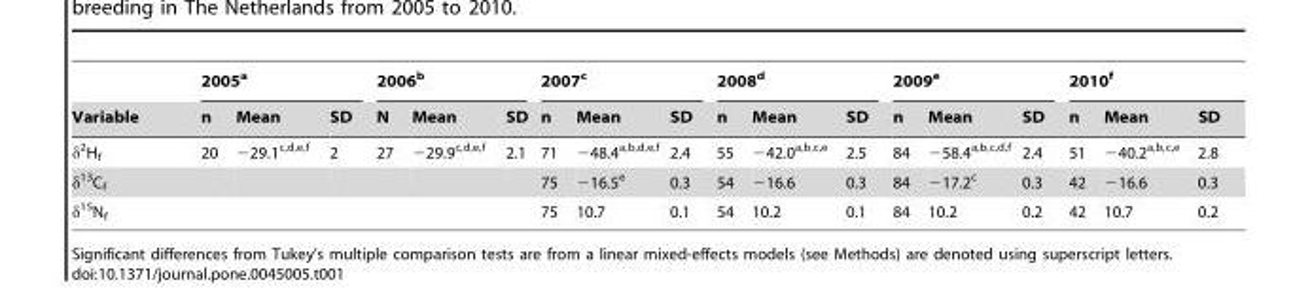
<table><thead><tr><td rowspan="2">Variable</td><td colspan="3">2005<sup>a</sup></td><td colspan="3">2006<sup>b</sup></td><td colspan="3">2007<sup>c</sup></td><td colspan="3">2008<sup>d</sup></td><td colspan="3">2009<sup>e</sup></td><td colspan="3">2010<sup>f</sup></td></tr><tr><td>n</td><td>Mean</td><td>SD</td><td>N</td><td>Mean</td><td>SD</td><td>n</td><td>Mean</td><td>SD</td><td>n</td><td>Mean</td><td>SD</td><td>n</td><td>Mean</td><td>SD</td><td>n</td><td>Mean</td><td>SD</td></tr></thead><tbody><tr><td>δ<sup>2</sup>H<sub>f</sub></td><td>20</td><td>−29.1<sup>c,d,e,f</sup></td><td>2</td><td>27</td><td>−29.9<sup>c,d,e,f</sup></td><td>2.1</td><td>71</td><td>−48.4<sup>a,b,d,e,f</sup></td><td>2.4</td><td>55</td><td>−42.0<sup>a,b,c,e</sup></td><td>2.5</td><td>84</td><td>−58.4<sup>a,b,c,d,f</sup></td><td>2.4</td><td>51</td><td>−40.2<sup>a,b,c,e</sup></td><td>2.8</td></tr><tr><td>δ<sup>13</sup>C<sub>f</sub></td><td></td><td></td><td></td><td></td><td></td><td></td><td>75</td><td>−16.5<sup>e</sup></td><td>0.3</td><td>54</td><td>−16.6</td><td>0.3</td><td>84</td><td>−17.2<sup>c</sup></td><td>0.3</td><td>42</td><td>−16.6</td><td>0.3</td></tr><tr><td>δ<sup>15</sup>N<sub>f</sub></td><td></td><td></td><td></td><td></td><td></td><td></td><td>75</td><td>10.7</td><td>0.1</td><td>54</td><td>10.2</td><td>0.1</td><td>84</td><td>10.2</td><td>0.2</td><td>42</td><td>10.7</td><td>0.2</td></tr></tbody></table>